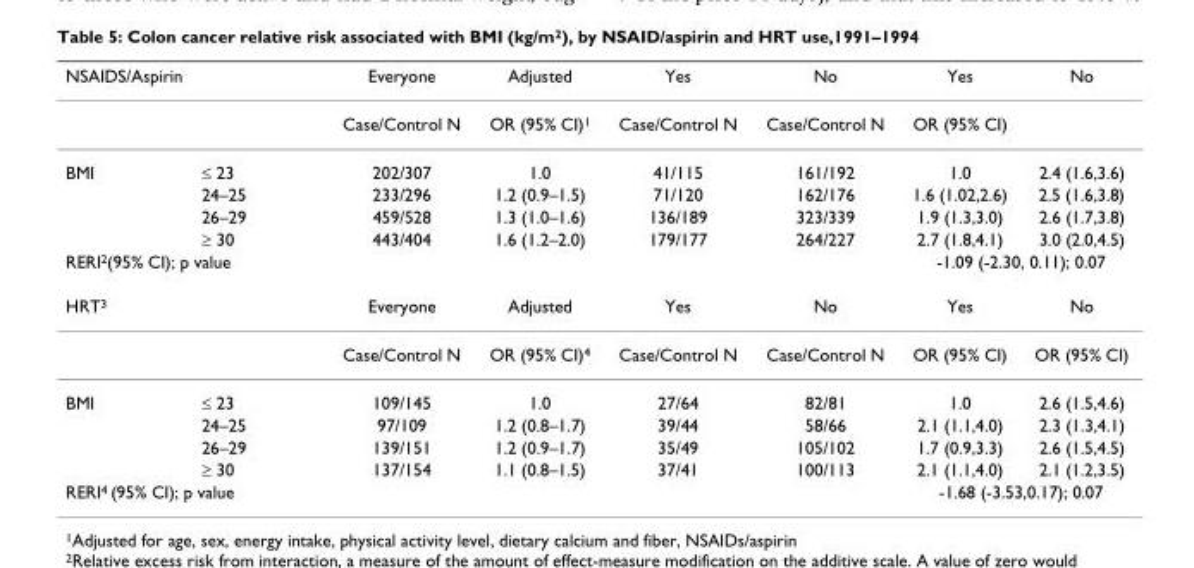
<table><thead><tr><td colspan="2">NSAIDS/Aspirin</td><td rowspan="2">Everyone Case/Control N</td><td rowspan="2">Adjusted OR (95% CI)1</td><td rowspan="2">Yes Case/Control N</td><td rowspan="2">No Case/Control N</td><td rowspan="2">Yes OR (95% CI)</td><td rowspan="2">No</td></tr><tr><td></td><td></td></tr></thead><tbody><tr><td rowspan="4">BMI</td><td>≤ 23</td><td>202/307</td><td>1.0</td><td>41/115</td><td>161/192</td><td>1.0</td><td>2.4 (1.6,3.6)</td></tr><tr><td>24–25</td><td>233/296</td><td>1.2 (0.9–1.5)</td><td>71/120</td><td>162/176</td><td>1.6 (1.02,2.6)</td><td>2.5 (1.6,3.8)</td></tr><tr><td>26–29</td><td>459/528</td><td>1.3 (1.0–1.6)</td><td>136/189</td><td>323/339</td><td>1.9 (1.3,3.0)</td><td>2.6 (1.7,3.8)</td></tr><tr><td>≥ 30</td><td>443/404</td><td>1.6 (1.2–2.0)</td><td>179/177</td><td>264/227</td><td>2.7 (1.8,4.1)</td><td>3.0 (2.0,4.5)</td></tr><tr><td colspan="3">RERI<sup>2</sup>(95% CI); p value</td><td></td><td></td><td></td><td colspan="2">-1.09 (-2.30, 0.11); 0.07</td></tr><tr><td rowspan="2">HRT<sup>3</sup></td><td></td><td>Everyone</td><td>Adjusted</td><td>Yes</td><td>No</td><td>Yes</td><td>No</td></tr><tr><td></td><td>Case/Control N</td><td>OR (95% CI)<sup>4</sup></td><td>Case/Control N</td><td>Case/Control N</td><td>OR (95% CI)</td><td>OR (95% CI)</td></tr><tr><td rowspan="4">BMI</td><td>≤ 23</td><td>109/145</td><td>1.0</td><td>27/64</td><td>82/81</td><td>1.0</td><td>2.6 (1.5,4.6)</td></tr><tr><td>24–25</td><td>97/109</td><td>1.2 (0.8–1.7)</td><td>39/44</td><td>58/66</td><td>2.1 (1.1,4.0)</td><td>2.3 (1.3,4.1)</td></tr><tr><td>26–29</td><td>139/151</td><td>1.2 (0.9–1.7)</td><td>35/49</td><td>105/102</td><td>1.7 (0.9,3.3)</td><td>2.6 (1.5,4.5)</td></tr><tr><td>≥ 30</td><td>137/154</td><td>1.1 (0.8–1.5)</td><td>37/41</td><td>100/113</td><td>2.1 (1.1,4.0)</td><td>2.1 (1.2,3.5)</td></tr><tr><td colspan="3">RERI<sup>4</sup> (95% CI); p value</td><td></td><td></td><td></td><td colspan="2">-1.68 (-3.53,0.17); 0.07</td></tr></tbody></table>